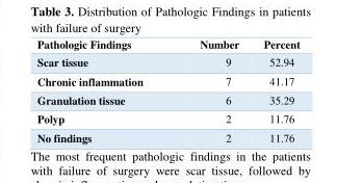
<table><thead><tr><td>Pathologic Findings</td><td>Number</td><td>Percent</td></tr></thead><tbody><tr><td>Scar tissue</td><td>9</td><td>52.94</td></tr><tr><td>Chronic inflammation</td><td>7</td><td>41.17</td></tr><tr><td>Granulation tissue</td><td>6</td><td>35.29</td></tr><tr><td>Polyp</td><td>2</td><td>11.76</td></tr><tr><td>No findings</td><td>2</td><td>11.76</td></tr></tbody></table>